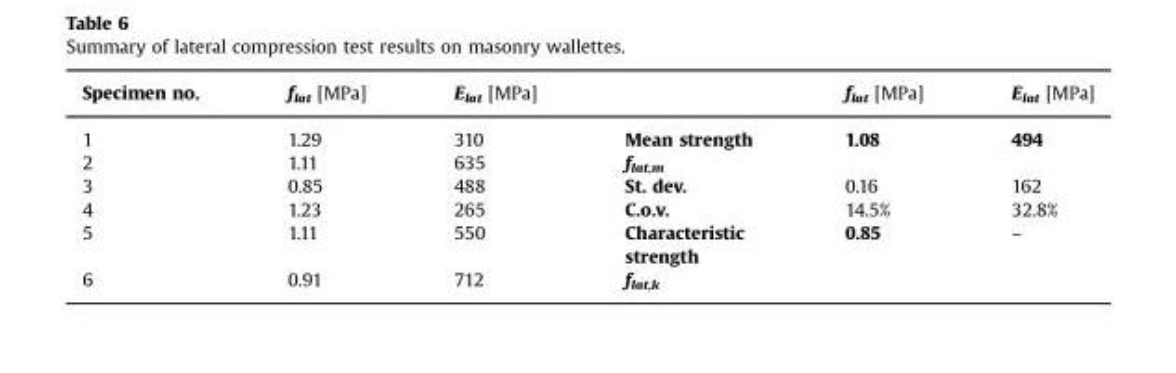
<table><thead><tr><td>Specimen no.</td><td>f<sub>lat</sub> [MPa]</td><td>E<sub>lat</sub> [MPa]</td><td></td><td>f<sub>lat</sub> [MPa]</td><td>E<sub>lat</sub> [MPa]</td></tr></thead><tbody><tr><td>1</td><td>1.29</td><td>310</td><td>Mean strength</td><td rowspan="2">1.08</td><td rowspan="2">494</td></tr><tr><td>2</td><td>1.11</td><td>635</td><td>f<sub>lat,m</sub></td></tr><tr><td>3</td><td>0.85</td><td>488</td><td>St. dev.</td><td>0.16</td><td>162</td></tr><tr><td>4</td><td>1.23</td><td>265</td><td>C.o.v.</td><td>14.5%</td><td>32.8%</td></tr><tr><td>5</td><td>1.11</td><td>550</td><td>Characteristic strength</td><td rowspan="2">0.85</td><td rowspan="2">–</td></tr><tr><td>6</td><td>0.91</td><td>712</td><td>f<sub>lat,k</sub></td></tr></tbody></table>